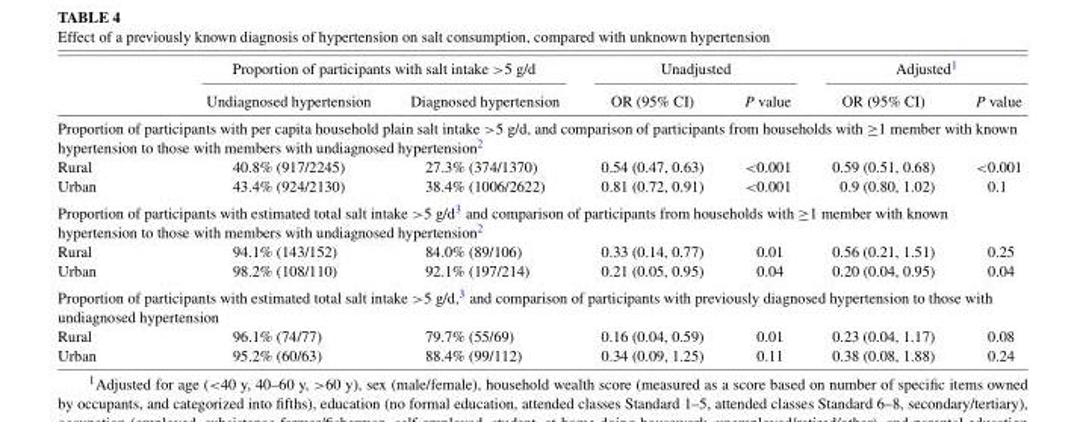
<table><thead><tr><td rowspan="2"></td><td colspan="2">Proportion of participants with salt intake &gt;5 g/d</td><td colspan="2">Unadjusted</td><td colspan="2">Adjusted<sup>1</sup></td></tr><tr><td>Undiagnosed hypertension</td><td>Diagnosed hypertension</td><td>OR (95% CI)</td><td>P value</td><td>OR (95% CI)</td><td>P value</td></tr></thead><tbody><tr><td colspan="7">Proportion of participants with per capita household plain salt intake &gt;5 g/d, and comparison of participants from households with ≥1 member with known hypertension to those with members with undiagnosed hypertension<sup>2</sup></td></tr><tr><td>Rural</td><td>40.8% (917/2245)</td><td>27.3% (374/1370)</td><td>0.54 (0.47, 0.63)</td><td>&lt;0.001</td><td>0.59 (0.51, 0.68)</td><td>&lt;0.001</td></tr><tr><td>Urban</td><td>43.4% (924/2130)</td><td>38.4% (1006/2622)</td><td>0.81 (0.72, 0.91)</td><td>&lt;0.001</td><td>0.9 (0.80, 1.02)</td><td>0.1</td></tr><tr><td colspan="7">Proportion of participants with estimated total salt intake &gt;5 g/d<sup>3</sup> and comparison of participants from households with ≥1 member with known hypertension to those with members with undiagnosed hypertension<sup>2</sup></td></tr><tr><td>Rural</td><td>94.1% (143/152)</td><td>84.0% (89/106)</td><td>0.33 (0.14, 0.77)</td><td>0.01</td><td>0.56 (0.21, 1.51)</td><td>0.25</td></tr><tr><td>Urban</td><td>98.2% (108/110)</td><td>92.1% (197/214)</td><td>0.21 (0.05, 0.95)</td><td>0.04</td><td>0.20 (0.04, 0.95)</td><td>0.04</td></tr><tr><td colspan="7">Proportion of participants with estimated total salt intake &gt;5 g/d,<sup>3</sup> and comparison of participants with previously diagnosed hypertension to those with undiagnosed hypertension</td></tr><tr><td>Rural</td><td>96.1% (74/77)</td><td>79.7% (55/69)</td><td>0.16 (0.04, 0.59)</td><td>0.01</td><td>0.23 (0.04, 1.17)</td><td>0.08</td></tr><tr><td>Urban</td><td>95.2% (60/63)</td><td>88.4% (99/112)</td><td>0.34 (0.09, 1.25)</td><td>0.11</td><td>0.38 (0.08, 1.88)</td><td>0.24</td></tr></tbody></table>